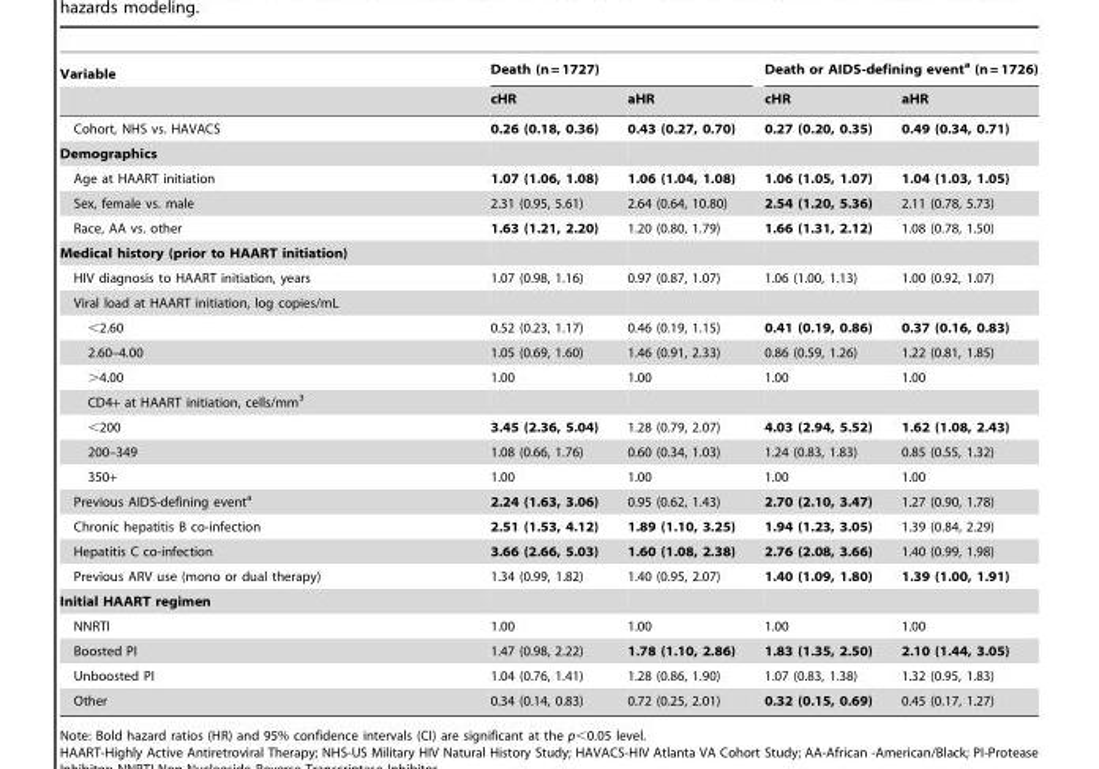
<table><thead><tr><td rowspan="2">Variable</td><td colspan="2">Death (n = 1727)</td><td colspan="2">Death or AIDS-defining event<sup>a</sup> (n = 1726)</td></tr><tr><td>cHR</td><td>aHR</td><td>cHR</td><td>aHR</td></tr></thead><tbody><tr><td>Cohort, NHS vs. HAVACS</td><td>0.26 (0.18, 0.36)</td><td>0.43 (0.27, 0.70)</td><td>0.27 (0.20, 0.35)</td><td>0.49 (0.34, 0.71)</td></tr><tr><td colspan="5">Demographics</td></tr><tr><td>Age at HAART initiation</td><td>1.07 (1.06, 1.08)</td><td>1.06 (1.04, 1.08)</td><td>1.06 (1.05, 1.07)</td><td>1.04 (1.03, 1.05)</td></tr><tr><td>Sex, female vs. male</td><td>2.31 (0.95, 5.61)</td><td>2.64 (0.64, 10.80)</td><td>2.54 (1.20, 5.36)</td><td>2.11 (0.78, 5.73)</td></tr><tr><td>Race, AA vs. other</td><td>1.63 (1.21, 2.20)</td><td>1.20 (0.80, 1.79)</td><td>1.66 (1.31, 2.12)</td><td>1.08 (0.78, 1.50)</td></tr><tr><td colspan="5">Medical history (prior to HAART initiation)</td></tr><tr><td>HIV diagnosis to HAART initiation, years</td><td>1.07 (0.98, 1.16)</td><td>0.97 (0.87, 1.07)</td><td>1.06 (1.00, 1.13)</td><td>1.00 (0.92, 1.07)</td></tr><tr><td colspan="5">Viral load at HAART initiation, log copies/mL</td></tr><tr><td>&lt;2.60</td><td>0.52 (0.23, 1.17)</td><td>0.46 (0.19, 1.15)</td><td>0.41 (0.19, 0.86)</td><td>0.37 (0.16, 0.83)</td></tr><tr><td>2.60–4.00</td><td>1.05 (0.69, 1.60)</td><td>1.46 (0.91, 2.33)</td><td>0.86 (0.59, 1.26)</td><td>1.22 (0.81, 1.85)</td></tr><tr><td>&gt;4.00</td><td>1.00</td><td>1.00</td><td>1.00</td><td>1.00</td></tr><tr><td colspan="5">CD4+ at HAART initiation, cells/mm<sup>3</sup></td></tr><tr><td>&lt;200</td><td>3.45 (2.36, 5.04)</td><td>1.28 (0.79, 2.07)</td><td>4.03 (2.94, 5.52)</td><td>1.62 (1.08, 2.43)</td></tr><tr><td>200–349</td><td>1.08 (0.66, 1.76)</td><td>0.60 (0.34, 1.03)</td><td>1.24 (0.83, 1.83)</td><td>0.85 (0.55, 1.32)</td></tr><tr><td>350+</td><td>1.00</td><td>1.00</td><td>1.00</td><td>1.00</td></tr><tr><td>Previous AIDS-defining event<sup>a</sup></td><td>2.24 (1.63, 3.06)</td><td>0.95 (0.62, 1.43)</td><td>2.70 (2.10, 3.47)</td><td>1.27 (0.90, 1.78)</td></tr><tr><td>Chronic hepatitis B co-infection</td><td>2.51 (1.53, 4.12)</td><td>1.89 (1.10, 3.25)</td><td>1.94 (1.23, 3.05)</td><td>1.39 (0.84, 2.29)</td></tr><tr><td>Hepatitis C co-infection</td><td>3.66 (2.66, 5.03)</td><td>1.60 (1.08, 2.38)</td><td>2.76 (2.08, 3.66)</td><td>1.40 (0.99, 1.98)</td></tr><tr><td>Previous ARV use (mono or dual therapy)</td><td>1.34 (0.99, 1.82)</td><td>1.40 (0.95, 2.07)</td><td>1.40 (1.09, 1.80)</td><td>1.39 (1.00, 1.91)</td></tr><tr><td colspan="5">Initial HAART regimen</td></tr><tr><td>NNRTI</td><td>1.00</td><td>1.00</td><td>1.00</td><td>1.00</td></tr><tr><td>Boosted PI</td><td>1.47 (0.98, 2.22)</td><td>1.78 (1.10, 2.86)</td><td>1.83 (1.35, 2.50)</td><td>2.10 (1.44, 3.05)</td></tr><tr><td>Unboosted PI</td><td>1.04 (0.76, 1.41)</td><td>1.28 (0.86, 1.90)</td><td>1.07 (0.83, 1.38)</td><td>1.32 (0.95, 1.83)</td></tr><tr><td>Other</td><td>0.34 (0.14, 0.83)</td><td>0.72 (0.25, 2.01)</td><td>0.32 (0.15, 0.69)</td><td>0.45 (0.17, 1.27)</td></tr></tbody></table>